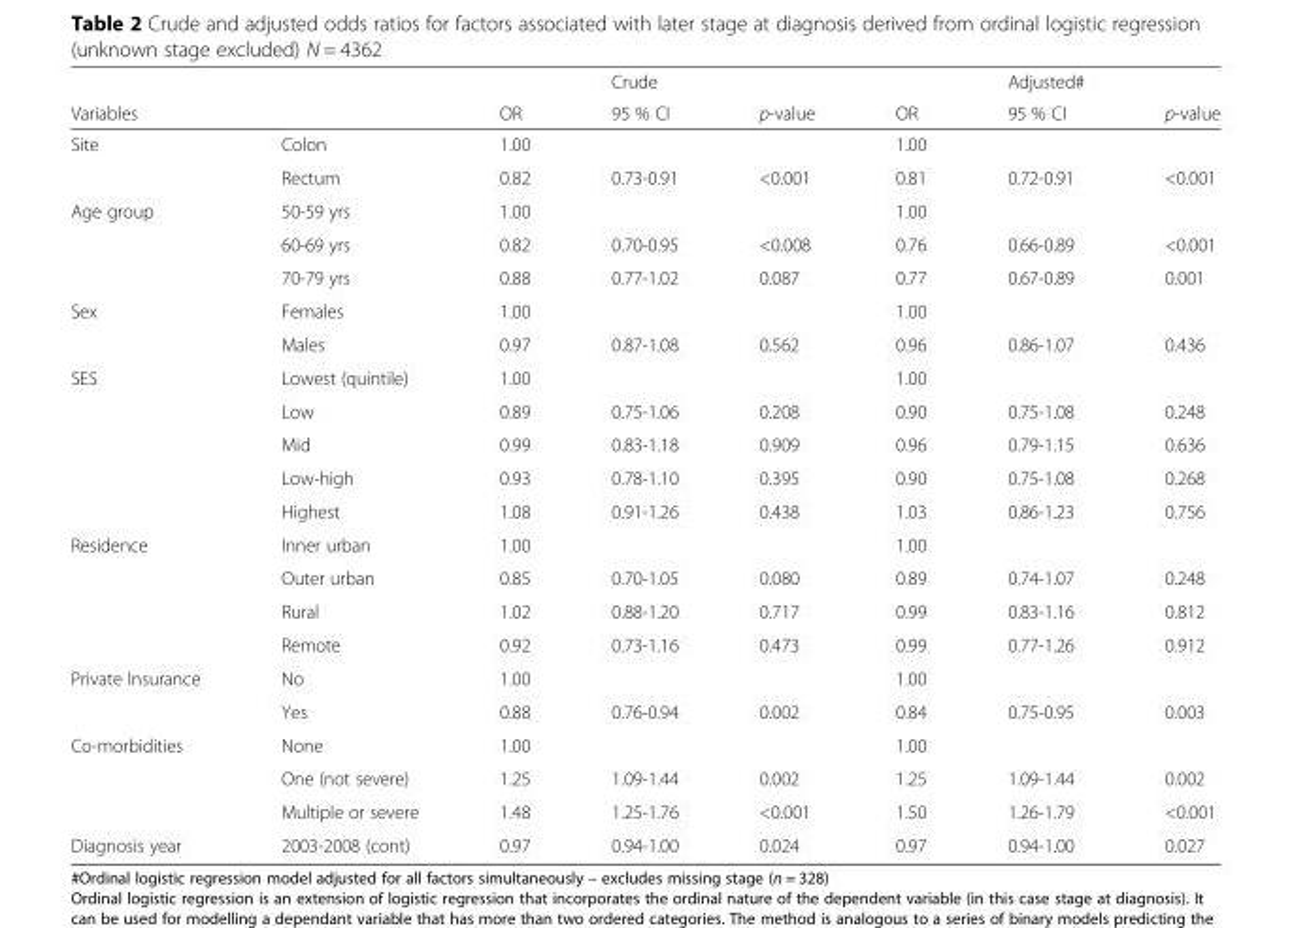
<table><thead><tr><td rowspan="2">Variables</td><td rowspan="2"></td><td rowspan="2">OR</td><td rowspan="2">Crude 95 % CI</td><td rowspan="2">p-value</td><td rowspan="2">OR</td><td rowspan="2">Adjusted# 95 % CI</td><td rowspan="2">p-value</td></tr><tr></tr></thead><tbody><tr><td rowspan="2">Site</td><td>Colon</td><td>1.00</td><td></td><td></td><td>1.00</td><td></td><td></td></tr><tr><td>Rectum</td><td>0.82</td><td>0.73-0.91</td><td>&lt;0.001</td><td>0.81</td><td>0.72-0.91</td><td>&lt;0.001</td></tr><tr><td rowspan="3">Age group</td><td>50-59 yrs</td><td>1.00</td><td></td><td></td><td>1.00</td><td></td><td></td></tr><tr><td>60-69 yrs</td><td>0.82</td><td>0.70-0.95</td><td>&lt;0.008</td><td>0.76</td><td>0.66-0.89</td><td>&lt;0.001</td></tr><tr><td>70-79 yrs</td><td>0.88</td><td>0.77-1.02</td><td>0.087</td><td>0.77</td><td>0.67-0.89</td><td>0.001</td></tr><tr><td rowspan="2">Sex</td><td>Females</td><td>1.00</td><td></td><td></td><td>1.00</td><td></td><td></td></tr><tr><td>Males</td><td>0.97</td><td>0.87-1.08</td><td>0.562</td><td>0.96</td><td>0.86-1.07</td><td>0.436</td></tr><tr><td rowspan="5">SES</td><td>Lowest (quintile)</td><td>1.00</td><td></td><td></td><td>1.00</td><td></td><td></td></tr><tr><td>Low</td><td>0.89</td><td>0.75-1.06</td><td>0.208</td><td>0.90</td><td>0.75-1.08</td><td>0.248</td></tr><tr><td>Mid</td><td>0.99</td><td>0.83-1.18</td><td>0.909</td><td>0.96</td><td>0.79-1.15</td><td>0.636</td></tr><tr><td>Low-high</td><td>0.93</td><td>0.78-1.10</td><td>0.395</td><td>0.90</td><td>0.75-1.08</td><td>0.268</td></tr><tr><td>Highest</td><td>1.08</td><td>0.91-1.26</td><td>0.438</td><td>1.03</td><td>0.86-1.23</td><td>0.756</td></tr><tr><td rowspan="4">Residence</td><td>Inner urban</td><td>1.00</td><td></td><td></td><td>1.00</td><td></td><td></td></tr><tr><td>Outer urban</td><td>0.85</td><td>0.70-1.05</td><td>0.080</td><td>0.89</td><td>0.74-1.07</td><td>0.248</td></tr><tr><td>Rural</td><td>1.02</td><td>0.88-1.20</td><td>0.717</td><td>0.99</td><td>0.83-1.16</td><td>0.812</td></tr><tr><td>Remote</td><td>0.92</td><td>0.73-1.16</td><td>0.473</td><td>0.99</td><td>0.77-1.26</td><td>0.912</td></tr><tr><td rowspan="2">Private Insurance</td><td>No</td><td>1.00</td><td></td><td></td><td>1.00</td><td></td><td></td></tr><tr><td>Yes</td><td>0.88</td><td>0.76-0.94</td><td>0.002</td><td>0.84</td><td>0.75-0.95</td><td>0.003</td></tr><tr><td rowspan="3">Co-morbidities</td><td>None</td><td>1.00</td><td></td><td></td><td>1.00</td><td></td><td></td></tr><tr><td>One (not severe)</td><td>1.25</td><td>1.09-1.44</td><td>0.002</td><td>1.25</td><td>1.09-1.44</td><td>0.002</td></tr><tr><td>Multiple or severe</td><td>1.48</td><td>1.25-1.76</td><td>&lt;0.001</td><td>1.50</td><td>1.26-1.79</td><td>&lt;0.001</td></tr><tr><td>Diagnosis year</td><td>2003-2008 (cont)</td><td>0.97</td><td>0.94-1.00</td><td>0.024</td><td>0.97</td><td>0.94-1.00</td><td>0.027</td></tr></tbody></table>